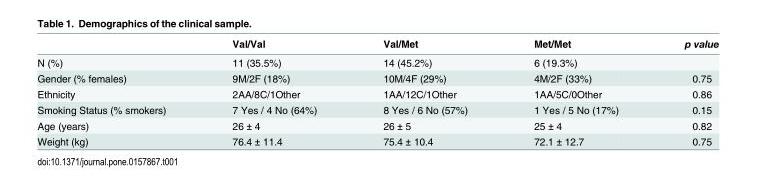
<table><thead><tr><td></td><td>Val/Val</td><td>Val/Met</td><td>Met/Met</td><td>p value</td></tr></thead><tbody><tr><td>N (%)</td><td>11 (35.5%)</td><td>14 (45.2%)</td><td>6 (19.3%)</td><td></td></tr><tr><td>Gender (% females)</td><td>9M/2F (18%)</td><td>10M/4F (29%)</td><td>4M/2F (33%)</td><td>0.75</td></tr><tr><td>Ethnicity</td><td>2AA/8C/1Other</td><td>1AA/12C/1Other</td><td>1AA/5C/0Other</td><td>0.86</td></tr><tr><td>Smoking Status (% smokers)</td><td>7 Yes / 4 No (64%)</td><td>8 Yes / 6 No (57%)</td><td>1 Yes / 5 No (17%)</td><td>0.15</td></tr><tr><td>Age (years)</td><td>26 ± 4</td><td>26 ± 5</td><td>25 ± 4</td><td>0.82</td></tr><tr><td>Weight (kg)</td><td>76.4 ± 11.4</td><td>75.4 ± 10.4</td><td>72.1 ± 12.7</td><td>0.75</td></tr></tbody></table>